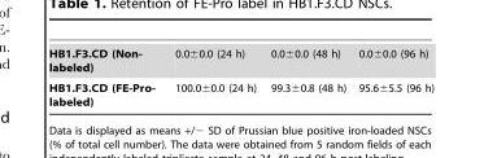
<table><tbody><tr><td>HB1.F3.CD (Non- labeled)</td><td>0.0±0.0 (24 h)</td><td>0.0±0.0 (48 h)</td><td>0.0±0.0 (96 h)</td></tr><tr><td>HB1.F3.CD (FE-Pro- labeled)</td><td>100.0±0.0 (24 h)</td><td>99.3±0.8 (48 h)</td><td>95.6±5.5 (96 h)</td></tr></tbody></table>